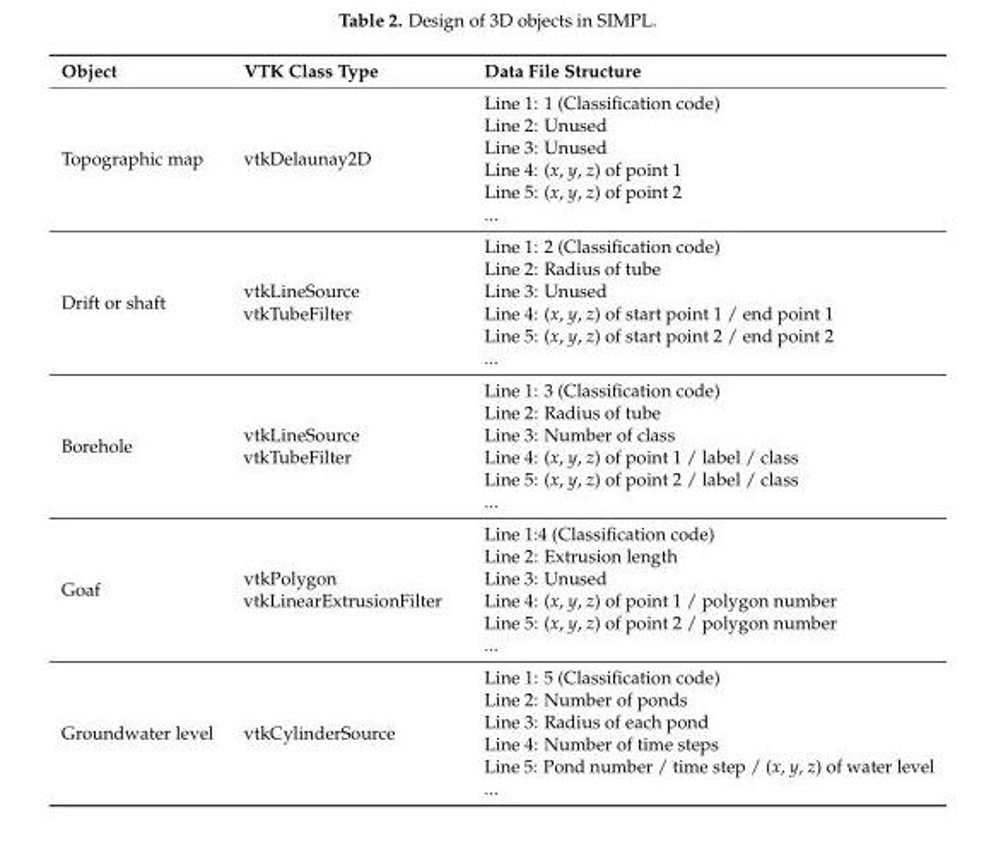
<table><thead><tr><td>Object</td><td>VTK Class Type</td><td>Data File Structure</td></tr></thead><tbody><tr><td>Topographic map</td><td>vtkDelaunay2D</td><td>Line 1: 1 (Classification code) Line 2: Unused Line 3: Unused Line 4: (x, y, z) of point 1 Line 5: (x, y, z) of point 2 ...</td></tr><tr><td>Drift or shaft</td><td>vtkLineSource vtkTubeFilter</td><td>Line 1: 2 (Classification code) Line 2: Radius of tube Line 3: Unused Line 4: (x, y, z) of start point 1 / end point 1 Line 5: (x, y, z) of start point 2 / end point 2 ...</td></tr><tr><td>Borehole</td><td>vtkLineSource vtkTubeFilter</td><td>Line 1: 3 (Classification code) Line 2: Radius of tube Line 3: Number of class Line 4: (x, y, z) of point 1 / label / class Line 5: (x, y, z) of point 2 / label / class ...</td></tr><tr><td>Goaf</td><td>vtkPolygon vtkLinearExtrusionFilter</td><td>Line 1:4 (Classification code) Line 2: Extrusion length Line 3: Unused Line 4: (x, y, z) of point 1 / polygon number Line 5: (x, y, z) of point 2 / polygon number ...</td></tr><tr><td>Groundwater level</td><td>vtkCylinderSource</td><td>Line 1: 5 (Classification code) Line 2: Number of ponds Line 3: Radius of each pond Line 4: Number of time steps Line 5: Pond number / time step / (x, y, z) of water level ...</td></tr></tbody></table>